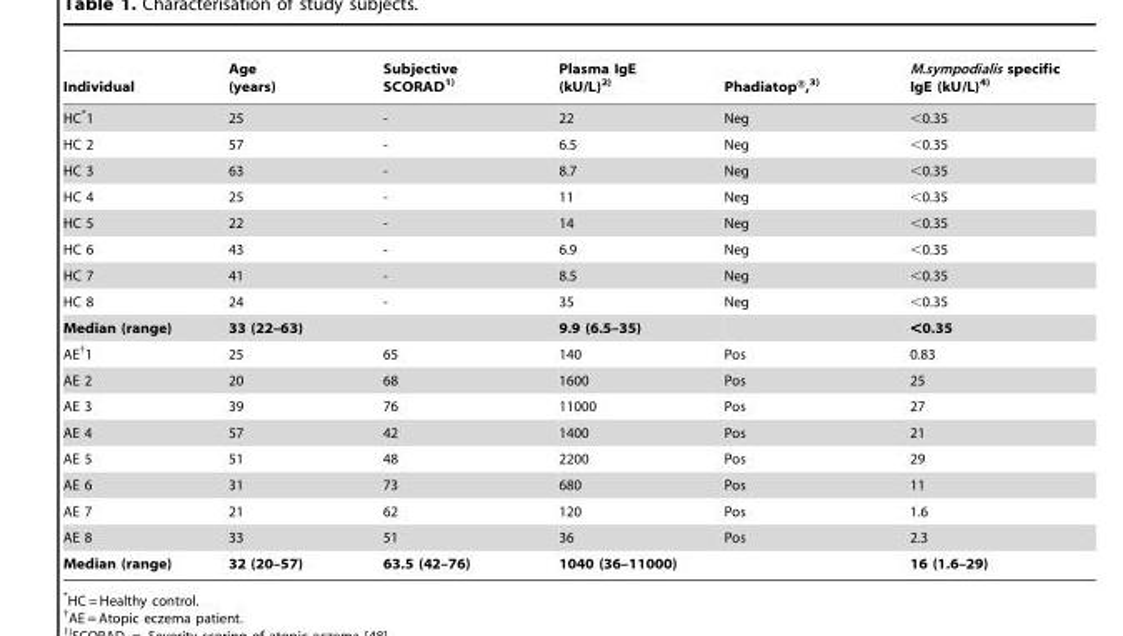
<table><thead><tr><td>Individual</td><td>Age (years)</td><td>Subjective SCORAD1)</td><td>Plasma IgE (kU/L)2)</td><td>Phadiatop®,3)</td><td>M.sympodialis specific IgE (kU/L)4)</td></tr></thead><tbody><tr><td>HC*1</td><td>25</td><td>-</td><td>22</td><td>Neg</td><td>&lt;0.35</td></tr><tr><td>HC 2</td><td>57</td><td>-</td><td>6.5</td><td>Neg</td><td>&lt;0.35</td></tr><tr><td>HC 3</td><td>63</td><td>-</td><td>8.7</td><td>Neg</td><td>&lt;0.35</td></tr><tr><td>HC 4</td><td>25</td><td>-</td><td>11</td><td>Neg</td><td>&lt;0.35</td></tr><tr><td>HC 5</td><td>22</td><td>-</td><td>14</td><td>Neg</td><td>&lt;0.35</td></tr><tr><td>HC 6</td><td>43</td><td>-</td><td>6.9</td><td>Neg</td><td>&lt;0.35</td></tr><tr><td>HC 7</td><td>41</td><td>-</td><td>8.5</td><td>Neg</td><td>&lt;0.35</td></tr><tr><td>HC 8</td><td>24</td><td>-</td><td>35</td><td>Neg</td><td>&lt;0.35</td></tr><tr><td>Median (range)</td><td>33 (22–63)</td><td></td><td>9.9 (6.5–35)</td><td></td><td>&lt;0.35</td></tr><tr><td>AE†1</td><td>25</td><td>65</td><td>140</td><td>Pos</td><td>0.83</td></tr><tr><td>AE 2</td><td>20</td><td>68</td><td>1600</td><td>Pos</td><td>25</td></tr><tr><td>AE 3</td><td>39</td><td>76</td><td>11000</td><td>Pos</td><td>27</td></tr><tr><td>AE 4</td><td>57</td><td>42</td><td>1400</td><td>Pos</td><td>21</td></tr><tr><td>AE 5</td><td>51</td><td>48</td><td>2200</td><td>Pos</td><td>29</td></tr><tr><td>AE 6</td><td>31</td><td>73</td><td>680</td><td>Pos</td><td>11</td></tr><tr><td>AE 7</td><td>21</td><td>62</td><td>120</td><td>Pos</td><td>1.6</td></tr><tr><td>AE 8</td><td>33</td><td>51</td><td>36</td><td>Pos</td><td>2.3</td></tr><tr><td>Median (range)</td><td>32 (20–57)</td><td>63.5 (42–76)</td><td>1040 (36–11000)</td><td></td><td>16 (1.6–29)</td></tr></tbody></table>